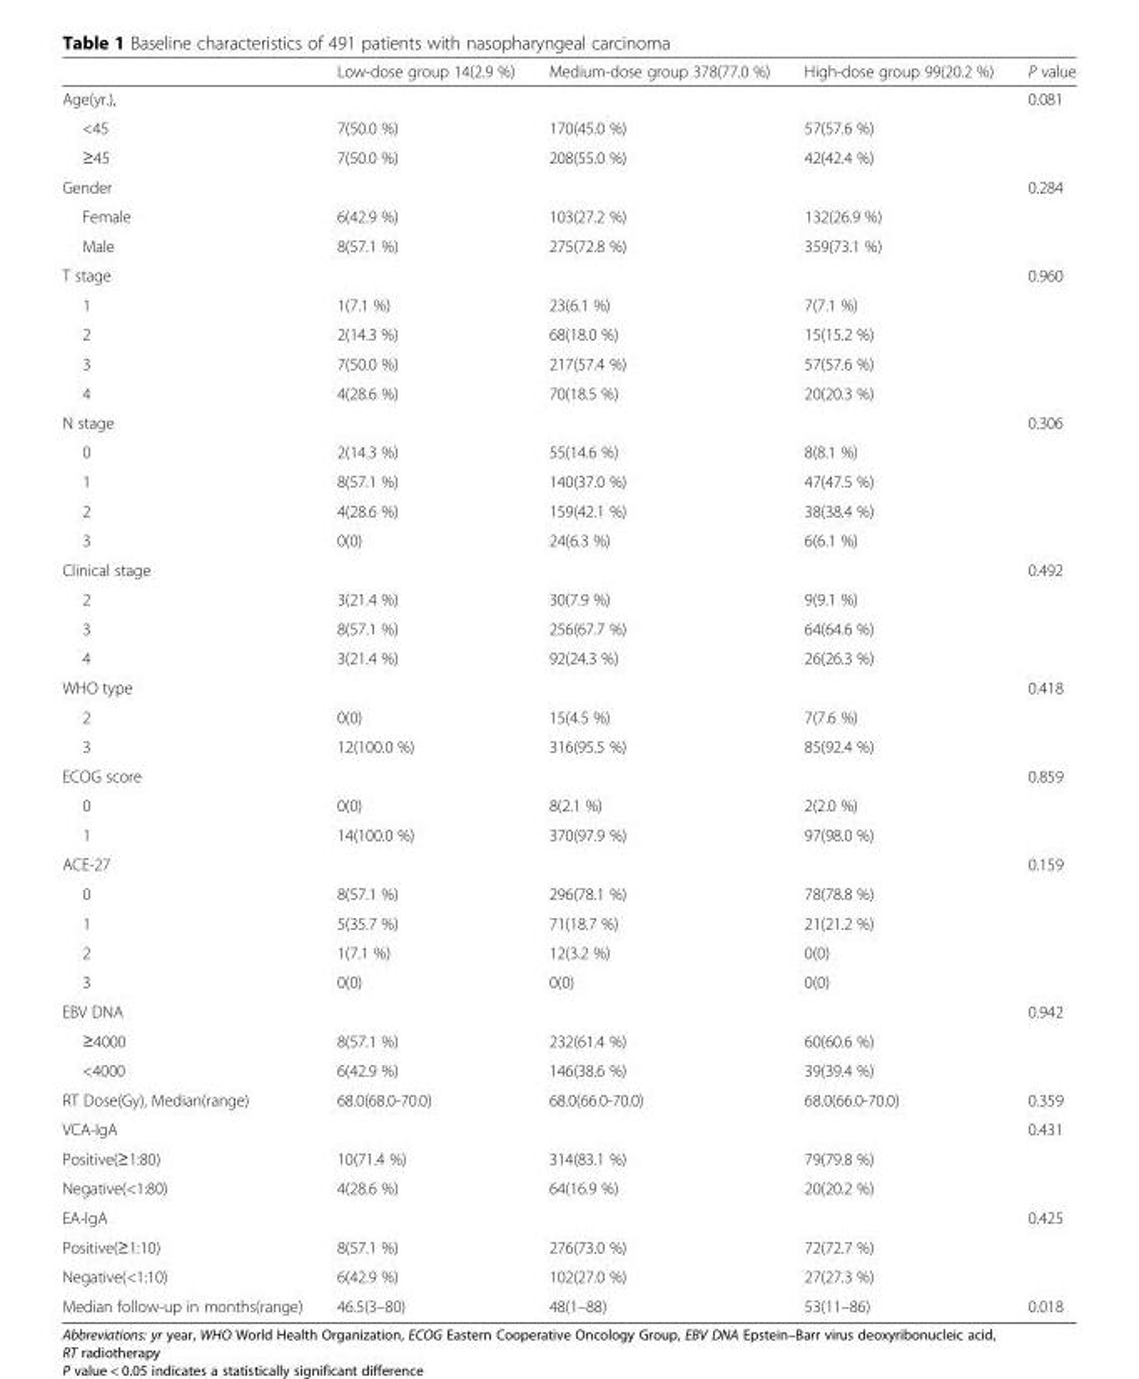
<table><thead><tr><td></td><td>Low-dose group 14(2.9 %)</td><td>Medium-dose group 378(77.0 %)</td><td>High-dose group 99(20.2 %)</td><td>P value</td></tr></thead><tbody><tr><td>Age(yr.),</td><td></td><td></td><td></td><td>0.081</td></tr><tr><td>&lt;45</td><td>7(50.0 %)</td><td>170(45.0 %)</td><td>57(57.6 %)</td><td></td></tr><tr><td>≥45</td><td>7(50.0 %)</td><td>208(55.0 %)</td><td>42(42.4 %)</td><td></td></tr><tr><td>Gender</td><td></td><td></td><td></td><td>0.284</td></tr><tr><td>Female</td><td>6(42.9 %)</td><td>103(27.2 %)</td><td>132(26.9 %)</td><td></td></tr><tr><td>Male</td><td>8(57.1 %)</td><td>275(72.8 %)</td><td>359(73.1 %)</td><td></td></tr><tr><td>T stage</td><td></td><td></td><td></td><td>0.960</td></tr><tr><td>1</td><td>1(7.1 %)</td><td>23(6.1 %)</td><td>7(7.1 %)</td><td></td></tr><tr><td>2</td><td>2(14.3 %)</td><td>68(18.0 %)</td><td>15(15.2 %)</td><td></td></tr><tr><td>3</td><td>7(50.0 %)</td><td>217(57.4 %)</td><td>57(57.6 %)</td><td></td></tr><tr><td>4</td><td>4(28.6 %)</td><td>70(18.5 %)</td><td>20(20.3 %)</td><td></td></tr><tr><td>N stage</td><td></td><td></td><td></td><td>0.306</td></tr><tr><td>0</td><td>2(14.3 %)</td><td>55(14.6 %)</td><td>8(8.1 %)</td><td></td></tr><tr><td>1</td><td>8(57.1 %)</td><td>140(37.0 %)</td><td>47(47.5 %)</td><td></td></tr><tr><td>2</td><td>4(28.6 %)</td><td>159(42.1 %)</td><td>38(38.4 %)</td><td></td></tr><tr><td>3</td><td>0(0)</td><td>24(6.3 %)</td><td>6(6.1 %)</td><td></td></tr><tr><td>Clinical stage</td><td></td><td></td><td></td><td>0.492</td></tr><tr><td>2</td><td>3(21.4 %)</td><td>30(7.9 %)</td><td>9(9.1 %)</td><td></td></tr><tr><td>3</td><td>8(57.1 %)</td><td>256(67.7 %)</td><td>64(64.6 %)</td><td></td></tr><tr><td>4</td><td>3(21.4 %)</td><td>92(24.3 %)</td><td>26(26.3 %)</td><td></td></tr><tr><td>WHO type</td><td></td><td></td><td></td><td>0.418</td></tr><tr><td>2</td><td>0(0)</td><td>15(4.5 %)</td><td>7(7.6 %)</td><td></td></tr><tr><td>3</td><td>12(100.0 %)</td><td>316(95.5 %)</td><td>85(92.4 %)</td><td></td></tr><tr><td>ECOG score</td><td></td><td></td><td></td><td>0.859</td></tr><tr><td>0</td><td>0(0)</td><td>8(2.1 %)</td><td>2(2.0 %)</td><td></td></tr><tr><td>1</td><td>14(100.0 %)</td><td>370(97.9 %)</td><td>97(98.0 %)</td><td></td></tr><tr><td>ACE-27</td><td></td><td></td><td></td><td>0.159</td></tr><tr><td>0</td><td>8(57.1 %)</td><td>296(78.1 %)</td><td>78(78.8 %)</td><td></td></tr><tr><td>1</td><td>5(35.7 %)</td><td>71(18.7 %)</td><td>21(21.2 %)</td><td></td></tr><tr><td>2</td><td>1(7.1 %)</td><td>12(3.2 %)</td><td>0(0)</td><td></td></tr><tr><td>3</td><td>0(0)</td><td>0(0)</td><td>0(0)</td><td></td></tr><tr><td>EBV DNA</td><td></td><td></td><td></td><td>0.942</td></tr><tr><td>≥4000</td><td>8(57.1 %)</td><td>232(61.4 %)</td><td>60(60.6 %)</td><td></td></tr><tr><td>&lt;4000</td><td>6(42.9 %)</td><td>146(38.6 %)</td><td>39(39.4 %)</td><td></td></tr><tr><td>RT Dose(Gy), Median(range)</td><td>68.0(68.0-70.0)</td><td>68.0(66.0-70.0)</td><td>68.0(66.0-70.0)</td><td>0.359</td></tr><tr><td>VCA-IgA</td><td></td><td></td><td></td><td>0.431</td></tr><tr><td>Positive(≥1:80)</td><td>10(71.4 %)</td><td>314(83.1 %)</td><td>79(79.8 %)</td><td></td></tr><tr><td>Negative(&lt;1:80)</td><td>4(28.6 %)</td><td>64(16.9 %)</td><td>20(20.2 %)</td><td></td></tr><tr><td>EA-IgA</td><td></td><td></td><td></td><td>0.425</td></tr><tr><td>Positive(≥1:10)</td><td>8(57.1 %)</td><td>276(73.0 %)</td><td>72(72.7 %)</td><td></td></tr><tr><td>Negative(&lt;1:10)</td><td>6(42.9 %)</td><td>102(27.0 %)</td><td>27(27.3 %)</td><td></td></tr><tr><td>Median follow-up in months(range)</td><td>46.5(3–80)</td><td>48(1–88)</td><td>53(11–86)</td><td>0.018</td></tr></tbody></table>